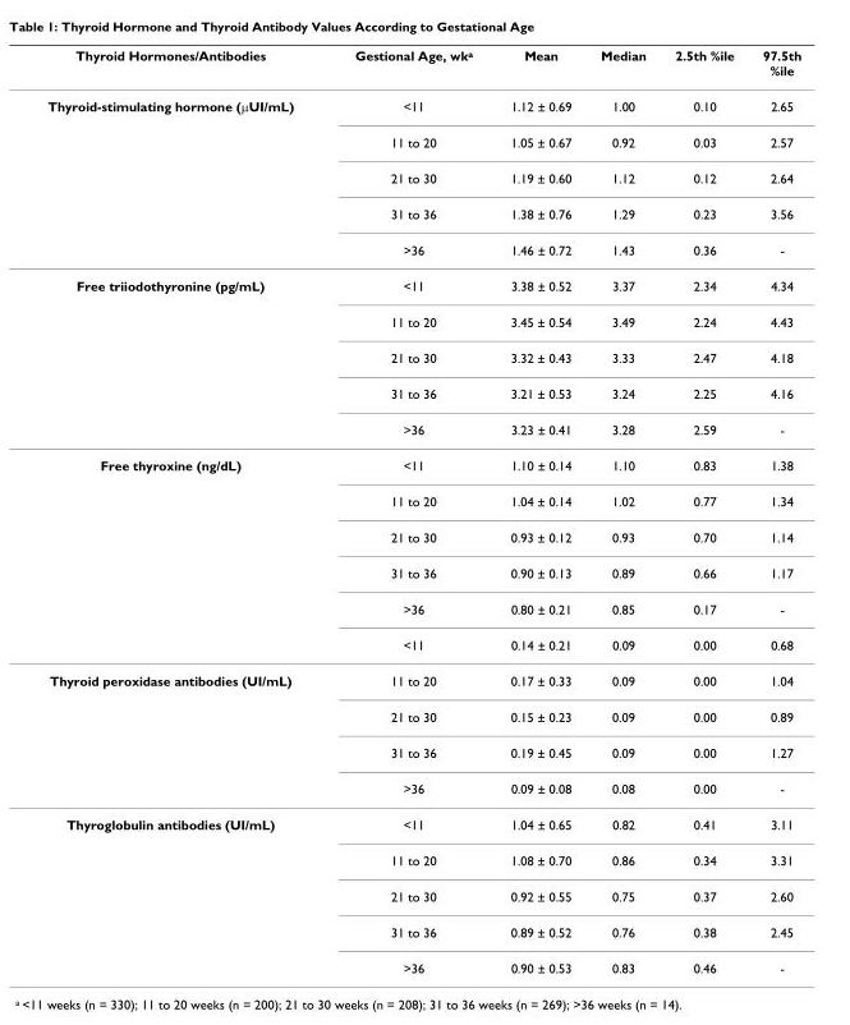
<table><thead><tr><td>Thyroid Hormones/Antibodies</td><td>Gestional Age, wk<sup>a</sup></td><td>Mean</td><td>Median</td><td>2.5th %ile</td><td>97.5th %ile</td></tr></thead><tbody><tr><td rowspan="5">Thyroid-stimulating hormone (μUI/mL)</td><td>&lt;11</td><td>1.12 ± 0.69</td><td>1.00</td><td>0.10</td><td>2.65</td></tr><tr><td>11 to 20</td><td>1.05 ± 0.67</td><td>0.92</td><td>0.03</td><td>2.57</td></tr><tr><td>21 to 30</td><td>1.19 ± 0.60</td><td>1.12</td><td>0.12</td><td>2.64</td></tr><tr><td>31 to 36</td><td>1.38 ± 0.76</td><td>1.29</td><td>0.23</td><td>3.56</td></tr><tr><td>&gt;36</td><td>1.46 ± 0.72</td><td>1.43</td><td>0.36</td><td>-</td></tr><tr><td rowspan="5">Free triiodothyronine (pg/mL)</td><td>&lt;11</td><td>3.38 ± 0.52</td><td>3.37</td><td>2.34</td><td>4.34</td></tr><tr><td>11 to 20</td><td>3.45 ± 0.54</td><td>3.49</td><td>2.24</td><td>4.43</td></tr><tr><td>21 to 30</td><td>3.32 ± 0.43</td><td>3.33</td><td>2.47</td><td>4.18</td></tr><tr><td>31 to 36</td><td>3.21 ± 0.53</td><td>3.24</td><td>2.25</td><td>4.16</td></tr><tr><td>&gt;36</td><td>3.23 ± 0.41</td><td>3.28</td><td>2.59</td><td>-</td></tr><tr><td rowspan="6">Free thyroxine (ng/dL)</td><td>&lt;11</td><td>1.10 ± 0.14</td><td>1.10</td><td>0.83</td><td>1.38</td></tr><tr><td>11 to 20</td><td>1.04 ± 0.14</td><td>1.02</td><td>0.77</td><td>1.34</td></tr><tr><td>21 to 30</td><td>0.93 ± 0.12</td><td>0.93</td><td>0.70</td><td>1.14</td></tr><tr><td>31 to 36</td><td>0.90 ± 0.13</td><td>0.89</td><td>0.66</td><td>1.17</td></tr><tr><td>&gt;36</td><td>0.80 ± 0.21</td><td>0.85</td><td>0.17</td><td>-</td></tr><tr><td>&lt;11</td><td>0.14 ± 0.21</td><td>0.09</td><td>0.00</td><td>0.68</td></tr><tr><td rowspan="4">Thyroid peroxidase antibodies (UI/mL)</td><td>11 to 20</td><td>0.17 ± 0.33</td><td>0.09</td><td>0.00</td><td>1.04</td></tr><tr><td>21 to 30</td><td>0.15 ± 0.23</td><td>0.09</td><td>0.00</td><td>0.89</td></tr><tr><td>31 to 36</td><td>0.19 ± 0.45</td><td>0.09</td><td>0.00</td><td>1.27</td></tr><tr><td>&gt;36</td><td>0.09 ± 0.08</td><td>0.08</td><td>0.00</td><td>-</td></tr><tr><td rowspan="5">Thyroglobulin antibodies (UI/mL)</td><td>&lt;11</td><td>1.04 ± 0.65</td><td>0.82</td><td>0.41</td><td>3.11</td></tr><tr><td>11 to 20</td><td>1.08 ± 0.70</td><td>0.86</td><td>0.34</td><td>3.31</td></tr><tr><td>21 to 30</td><td>0.92 ± 0.55</td><td>0.75</td><td>0.37</td><td>2.60</td></tr><tr><td>31 to 36</td><td>0.89 ± 0.52</td><td>0.76</td><td>0.38</td><td>2.45</td></tr><tr><td>&gt;36</td><td>0.90 ± 0.53</td><td>0.83</td><td>0.46</td><td>-</td></tr></tbody></table>